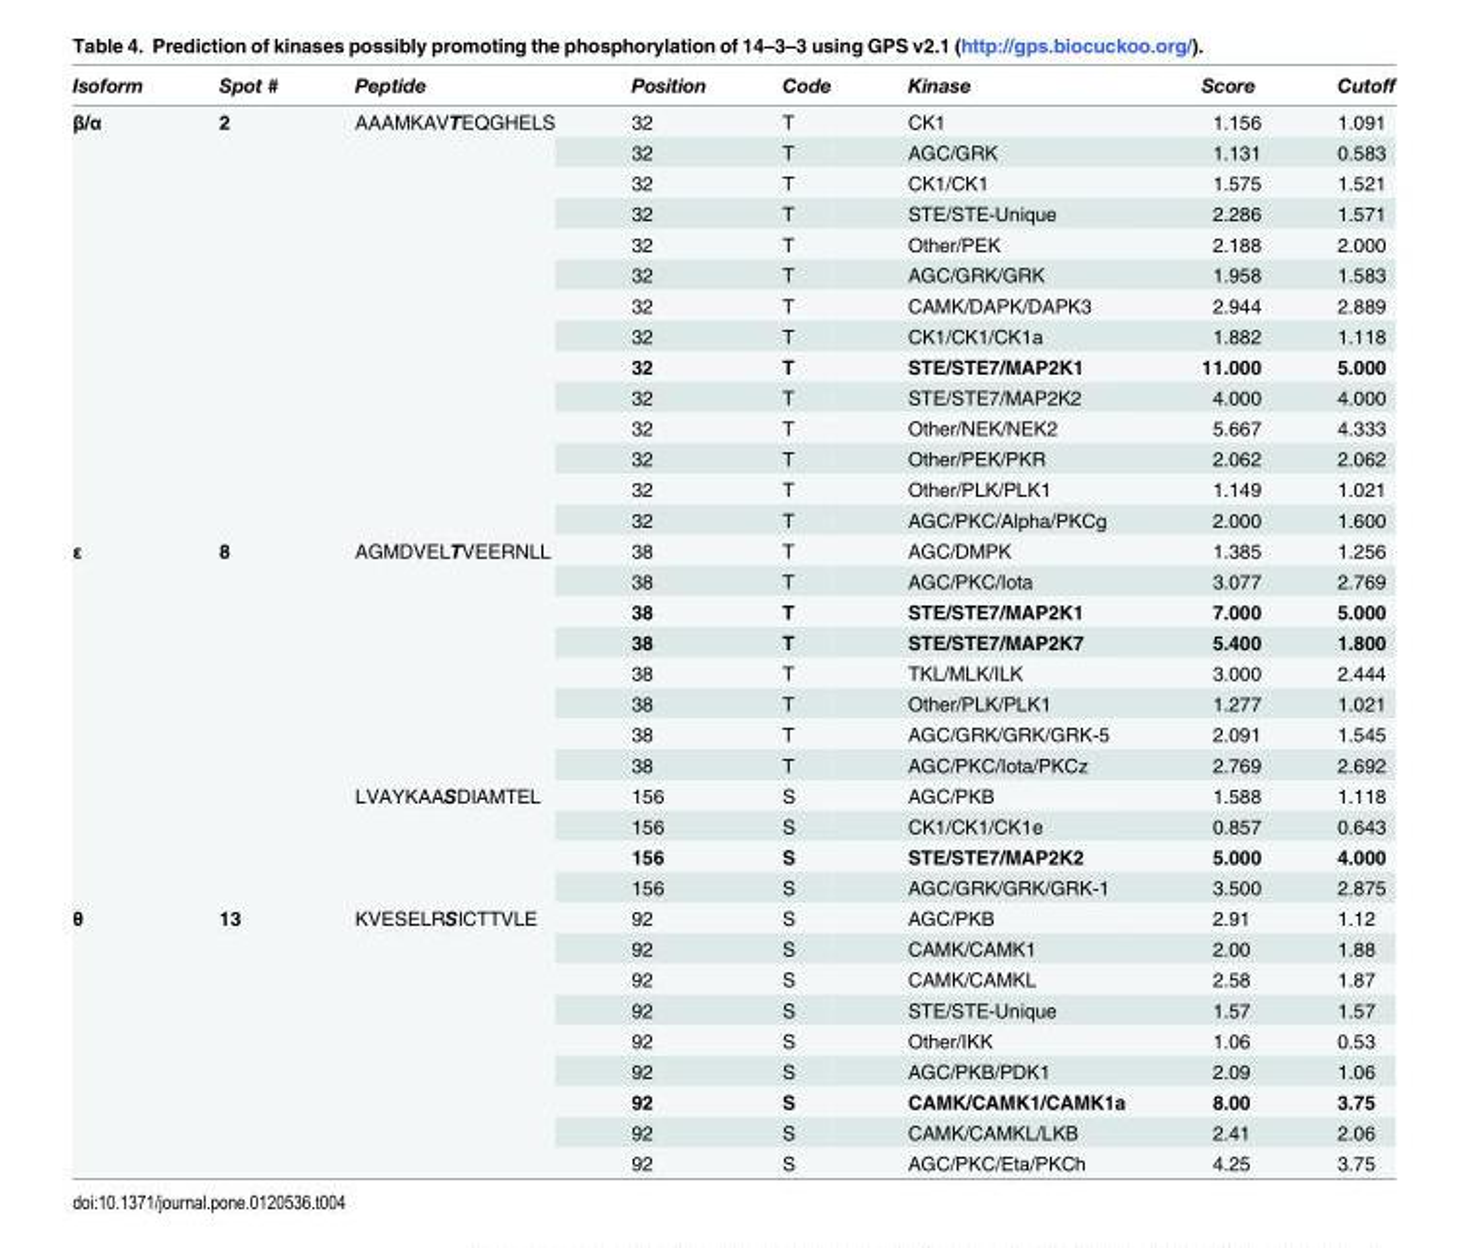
<table><thead><tr><td>Isoform</td><td>Spot #</td><td>Peptide</td><td>Position</td><td>Code</td><td>Kinase</td><td>Score</td><td>Cutoff</td></tr></thead><tbody><tr><td rowspan="14">β/α</td><td rowspan="14">2</td><td rowspan="14">AAAMKAVTEQGHELS</td><td>32</td><td>T</td><td>CK1</td><td>1.156</td><td>1.091</td></tr><tr><td>32</td><td>T</td><td>AGC/GRK</td><td>1.131</td><td>0.583</td></tr><tr><td>32</td><td>T</td><td>CK1/CK1</td><td>1.575</td><td>1.521</td></tr><tr><td>32</td><td>T</td><td>STE/STE-Unique</td><td>2.286</td><td>1.571</td></tr><tr><td>32</td><td>T</td><td>Other/PEK</td><td>2.188</td><td>2.000</td></tr><tr><td>32</td><td>T</td><td>AGC/GRK/GRK</td><td>1.958</td><td>1.583</td></tr><tr><td>32</td><td>T</td><td>CAMK/DAPK/DAPK3</td><td>2.944</td><td>2.889</td></tr><tr><td>32</td><td>T</td><td>CK1/CK1/CK1a</td><td>1.882</td><td>1.118</td></tr><tr><td>32</td><td>T</td><td>STE/STE7/MAP2K1</td><td>11.000</td><td>5.000</td></tr><tr><td>32</td><td>T</td><td>STE/STE7/MAP2K2</td><td>4.000</td><td>4.000</td></tr><tr><td>32</td><td>T</td><td>Other/NEK/NEK2</td><td>5.667</td><td>4.333</td></tr><tr><td>32</td><td>T</td><td>Other/PEK/PKR</td><td>2.062</td><td>2.062</td></tr><tr><td>32</td><td>T</td><td>Other/PLK/PLK1</td><td>1.149</td><td>1.021</td></tr><tr><td>32</td><td>T</td><td>AGC/PKC/Alpha/PKCg</td><td>2.000</td><td>1.600</td></tr><tr><td rowspan="12">ε</td><td rowspan="12">8</td><td rowspan="8">AGMDVELTVEERNLL</td><td>38</td><td>T</td><td>AGC/DMPK</td><td>1.385</td><td>1.256</td></tr><tr><td>38</td><td>T</td><td>AGC/PKC/Iota</td><td>3.077</td><td>2.769</td></tr><tr><td>38</td><td>T</td><td>STE/STE7/MAP2K1</td><td>7.000</td><td>5.000</td></tr><tr><td>38</td><td>T</td><td>STE/STE7/MAP2K7</td><td>5.400</td><td>1.800</td></tr><tr><td>38</td><td>T</td><td>TKL/MLK/ILK</td><td>3.000</td><td>2.444</td></tr><tr><td>38</td><td>T</td><td>Other/PLK/PLK1</td><td>1.277</td><td>1.021</td></tr><tr><td>38</td><td>T</td><td>AGC/GRK/GRK/GRK-5</td><td>2.091</td><td>1.545</td></tr><tr><td>38</td><td>T</td><td>AGC/PKC/Iota/PKCz</td><td>2.769</td><td>2.692</td></tr><tr><td rowspan="4">LVAYKAASDIAMTEL</td><td>156</td><td>S</td><td>AGC/PKB</td><td>1.588</td><td>1.118</td></tr><tr><td>156</td><td>S</td><td>CK1/CK1/CK1e</td><td>0.857</td><td>0.643</td></tr><tr><td>156</td><td>S</td><td>STE/STE7/MAP2K2</td><td>5.000</td><td>4.000</td></tr><tr><td>156</td><td>S</td><td>AGC/GRK/GRK/GRK-1</td><td>3.500</td><td>2.875</td></tr><tr><td rowspan="9">θ</td><td rowspan="9">13</td><td rowspan="9">KVESELRSICTTVLE</td><td>92</td><td>S</td><td>AGC/PKB</td><td>2.91</td><td>1.12</td></tr><tr><td>92</td><td>S</td><td>CAMK/CAMK1</td><td>2.00</td><td>1.88</td></tr><tr><td>92</td><td>S</td><td>CAMK/CAMKL</td><td>2.58</td><td>1.87</td></tr><tr><td>92</td><td>S</td><td>STE/STE-Unique</td><td>1.57</td><td>1.57</td></tr><tr><td>92</td><td>S</td><td>Other/IKK</td><td>1.06</td><td>0.53</td></tr><tr><td>92</td><td>S</td><td>AGC/PKB/PDK1</td><td>2.09</td><td>1.06</td></tr><tr><td>92</td><td>S</td><td>CAMK/CAMK1/CAMK1a</td><td>8.00</td><td>3.75</td></tr><tr><td>92</td><td>S</td><td>CAMK/CAMKL/LKB</td><td>2.41</td><td>2.06</td></tr><tr><td>92</td><td>S</td><td>AGC/PKC/Eta/PKCh</td><td>4.25</td><td>3.75</td></tr></tbody></table>